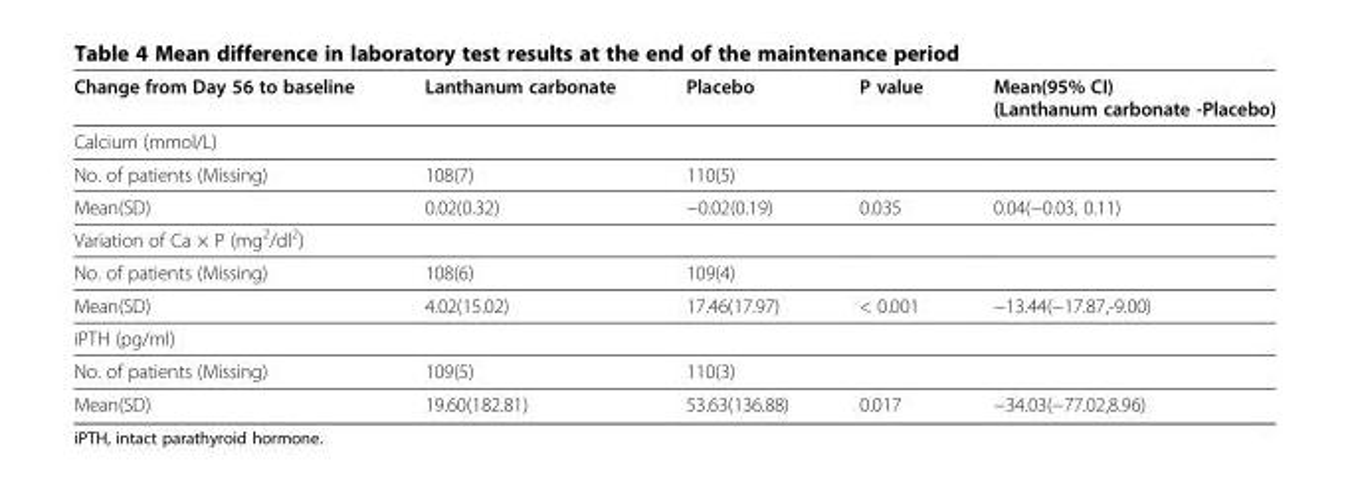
<table><thead><tr><td>Change from Day 56 to baseline</td><td>Lanthanum carbonate</td><td>Placebo</td><td>P value</td><td>Mean(95% CI) (Lanthanum carbonate -Placebo)</td></tr></thead><tbody><tr><td colspan="5">Calcium (mmol/L)</td></tr><tr><td>No. of patients (Missing)</td><td>108(7)</td><td>110(5)</td><td></td><td></td></tr><tr><td>Mean(SD)</td><td>0.02(0.32)</td><td>−0.02(0.19)</td><td>0.035</td><td>0.04(−0.03, 0.11)</td></tr><tr><td colspan="5">Variation of Ca × P (mg<sup>2</sup>/dl<sup>2</sup>)</td></tr><tr><td>No. of patients (Missing)</td><td>108(6)</td><td>109(4)</td><td></td><td></td></tr><tr><td>Mean(SD)</td><td>4.02(15.02)</td><td>17.46(17.97)</td><td>&lt; 0.001</td><td>−13.44(−17.87,-9.00)</td></tr><tr><td colspan="5">iPTH (pg/ml)</td></tr><tr><td>No. of patients (Missing)</td><td>109(5)</td><td>110(3)</td><td></td><td></td></tr><tr><td>Mean(SD)</td><td>19.60(182.81)</td><td>53.63(136.88)</td><td>0.017</td><td>−34.03(−77.02,8.96)</td></tr></tbody></table>